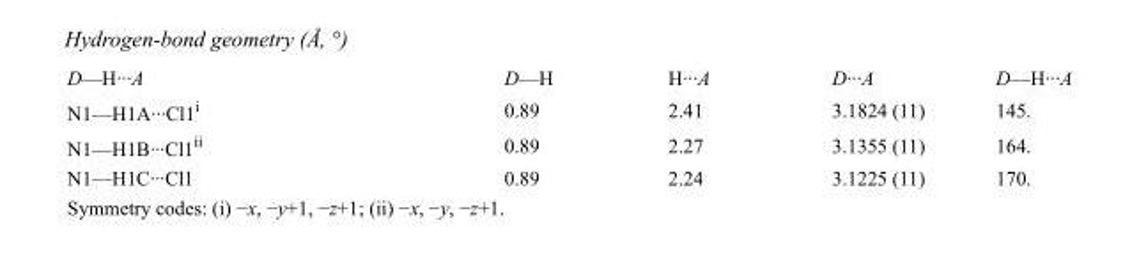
<table><tbody><tr><td>D—H···A</td><td>D—H</td><td>H···A</td><td>D···A</td><td>D—H···A</td></tr><tr><td>N1—H1A···Cl1<sup>i</sup></td><td>0.89</td><td>2.41</td><td>3.1824 (11)</td><td>145.</td></tr><tr><td>N1—H1B···Cl1<sup>ii</sup></td><td>0.89</td><td>2.27</td><td>3.1355 (11)</td><td>164.</td></tr><tr><td>N1—H1C···Cl1</td><td>0.89</td><td>2.24</td><td>3.1225 (11)</td><td>170.</td></tr></tbody></table>